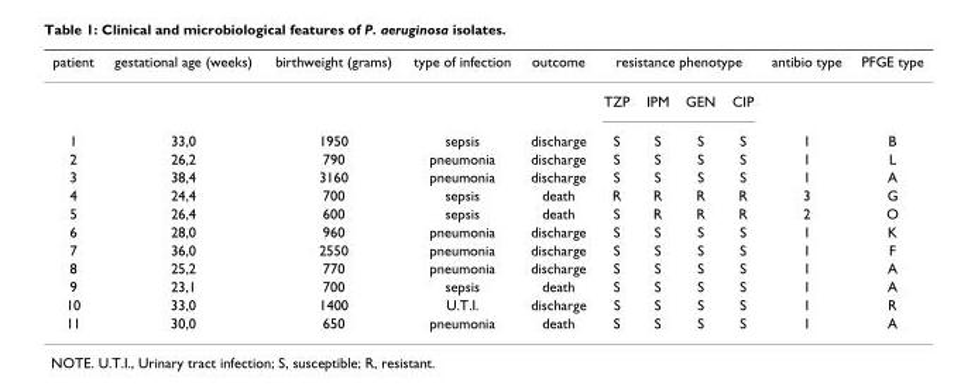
<table><thead><tr><td rowspan="2">patient</td><td rowspan="2">gestational age (weeks)</td><td rowspan="2">birthweight (grams)</td><td rowspan="2">type of infection</td><td rowspan="2">outcome</td><td colspan="4">resistance phenotype</td><td rowspan="2">antibio type</td><td rowspan="2">PFGE type</td></tr><tr><td>TZP</td><td>IPM</td><td>GEN</td><td>CIP</td></tr></thead><tbody><tr><td>1</td><td>33,0</td><td>1950</td><td>sepsis</td><td>discharge</td><td>S</td><td>S</td><td>S</td><td>S</td><td>1</td><td>B</td></tr><tr><td>2</td><td>26,2</td><td>790</td><td>pneumonia</td><td>discharge</td><td>S</td><td>S</td><td>S</td><td>S</td><td>1</td><td>L</td></tr><tr><td>3</td><td>38,4</td><td>3160</td><td>pneumonia</td><td>discharge</td><td>S</td><td>S</td><td>S</td><td>S</td><td>1</td><td>A</td></tr><tr><td>4</td><td>24,4</td><td>700</td><td>sepsis</td><td>death</td><td>R</td><td>R</td><td>R</td><td>R</td><td>3</td><td>G</td></tr><tr><td>5</td><td>26,4</td><td>600</td><td>sepsis</td><td>death</td><td>S</td><td>R</td><td>R</td><td>R</td><td>2</td><td>O</td></tr><tr><td>6</td><td>28,0</td><td>960</td><td>pneumonia</td><td>discharge</td><td>S</td><td>S</td><td>S</td><td>S</td><td>1</td><td>K</td></tr><tr><td>7</td><td>36,0</td><td>2550</td><td>pneumonia</td><td>discharge</td><td>S</td><td>S</td><td>S</td><td>S</td><td>1</td><td>F</td></tr><tr><td>8</td><td>25,2</td><td>770</td><td>pneumonia</td><td>discharge</td><td>S</td><td>S</td><td>S</td><td>S</td><td>1</td><td>A</td></tr><tr><td>9</td><td>23,1</td><td>700</td><td>sepsis</td><td>death</td><td>S</td><td>S</td><td>S</td><td>S</td><td>1</td><td>A</td></tr><tr><td>10</td><td>33,0</td><td>1400</td><td>U.T.I.</td><td>discharge</td><td>S</td><td>S</td><td>S</td><td>S</td><td>1</td><td>R</td></tr><tr><td>11</td><td>30,0</td><td>650</td><td>pneumonia</td><td>death</td><td>S</td><td>S</td><td>S</td><td>S</td><td>1</td><td>A</td></tr></tbody></table>